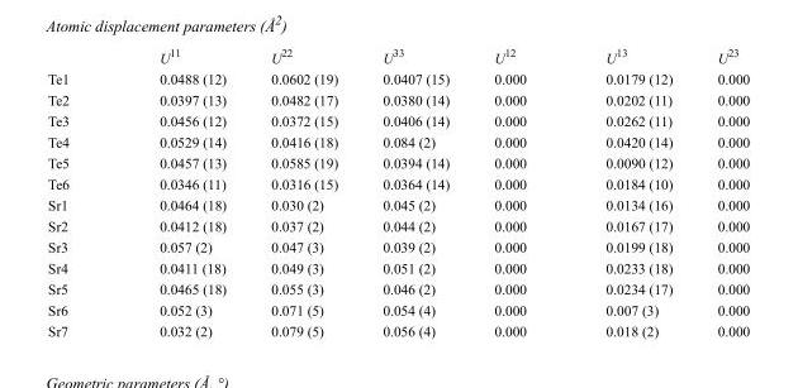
<table><thead><tr><td></td><td>U<sup>11</sup></td><td>U<sup>22</sup></td><td>U<sup>33</sup></td><td>U<sup>12</sup></td><td>U<sup>13</sup></td><td>U<sup>23</sup></td></tr></thead><tbody><tr><td>Te1</td><td>0.0488 (12)</td><td>0.0602 (19)</td><td>0.0407 (15)</td><td>0.000</td><td>0.0179 (12)</td><td>0.000</td></tr><tr><td>Te2</td><td>0.0397 (13)</td><td>0.0482 (17)</td><td>0.0380 (14)</td><td>0.000</td><td>0.0202 (11)</td><td>0.000</td></tr><tr><td>Te3</td><td>0.0456 (12)</td><td>0.0372 (15)</td><td>0.0406 (14)</td><td>0.000</td><td>0.0262 (11)</td><td>0.000</td></tr><tr><td>Te4</td><td>0.0529 (14)</td><td>0.0416 (18)</td><td>0.084 (2)</td><td>0.000</td><td>0.0420 (14)</td><td>0.000</td></tr><tr><td>Te5</td><td>0.0457 (13)</td><td>0.0585 (19)</td><td>0.0394 (14)</td><td>0.000</td><td>0.0090 (12)</td><td>0.000</td></tr><tr><td>Te6</td><td>0.0346 (11)</td><td>0.0316 (15)</td><td>0.0364 (14)</td><td>0.000</td><td>0.0184 (10)</td><td>0.000</td></tr><tr><td>Sr1</td><td>0.0464 (18)</td><td>0.030 (2)</td><td>0.045 (2)</td><td>0.000</td><td>0.0134 (16)</td><td>0.000</td></tr><tr><td>Sr2</td><td>0.0412 (18)</td><td>0.037 (2)</td><td>0.044 (2)</td><td>0.000</td><td>0.0167 (17)</td><td>0.000</td></tr><tr><td>Sr3</td><td>0.057 (2)</td><td>0.047 (3)</td><td>0.039 (2)</td><td>0.000</td><td>0.0199 (18)</td><td>0.000</td></tr><tr><td>Sr4</td><td>0.0411 (18)</td><td>0.049 (3)</td><td>0.051 (2)</td><td>0.000</td><td>0.0233 (18)</td><td>0.000</td></tr><tr><td>Sr5</td><td>0.0465 (18)</td><td>0.055 (3)</td><td>0.046 (2)</td><td>0.000</td><td>0.0234 (17)</td><td>0.000</td></tr><tr><td>Sr6</td><td>0.052 (3)</td><td>0.071 (5)</td><td>0.054 (4)</td><td>0.000</td><td>0.007 (3)</td><td>0.000</td></tr><tr><td>Sr7</td><td>0.032 (2)</td><td>0.079 (5)</td><td>0.056 (4)</td><td>0.000</td><td>0.018 (2)</td><td>0.000</td></tr></tbody></table>